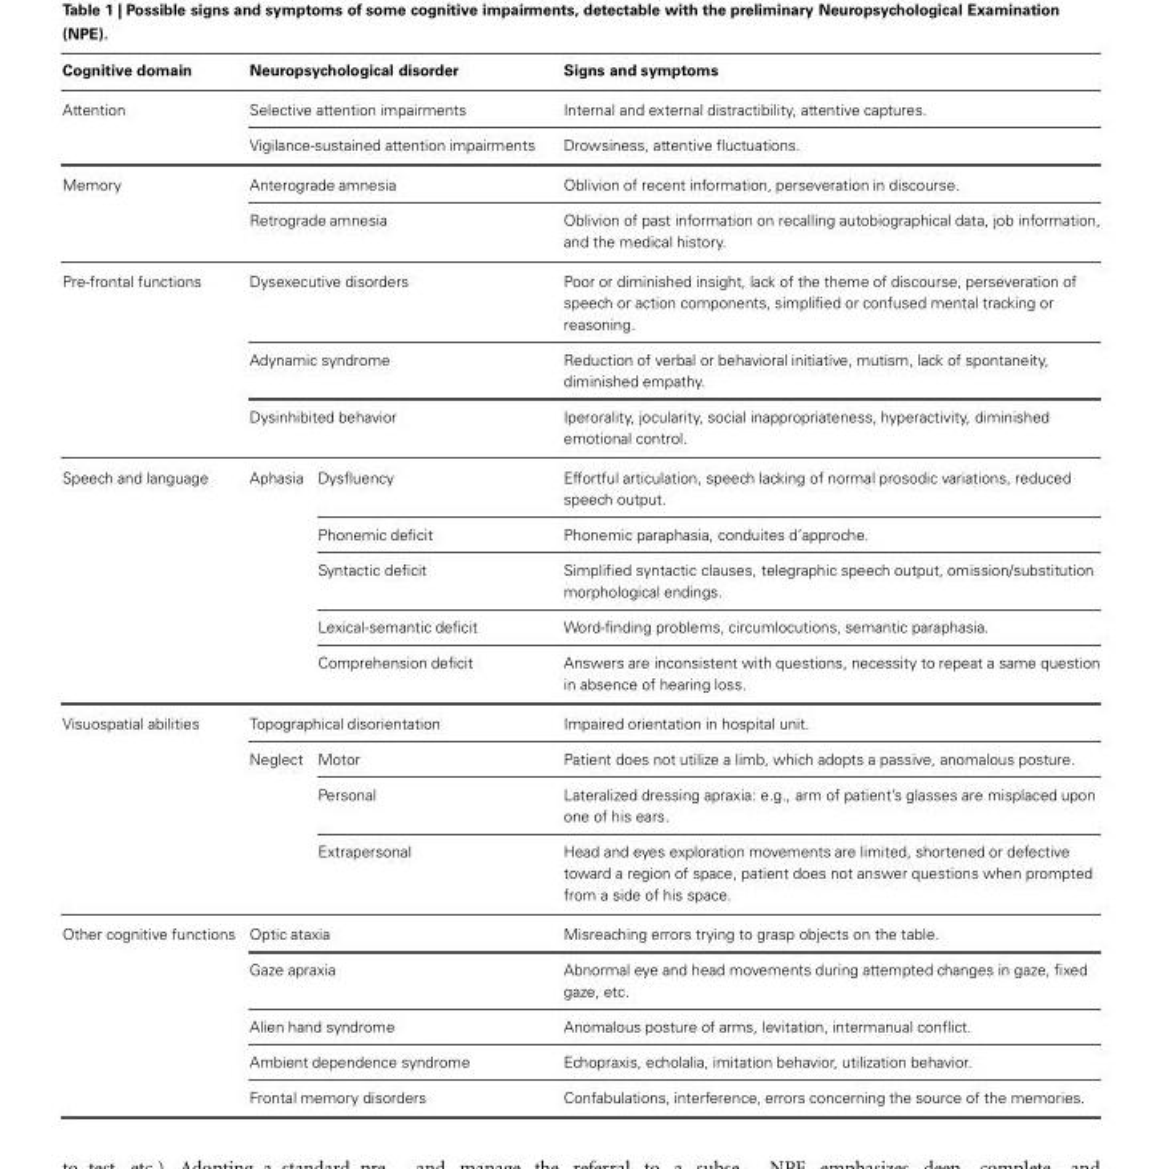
<table><thead><tr><td>Cognitive domain</td><td colspan="2">Neuropsychological disorder</td><td>Signs and symptoms</td></tr></thead><tbody><tr><td rowspan="2">Attention</td><td colspan="2">Selective attention impairments</td><td>Internal and external distractibility, attentive captures.</td></tr><tr><td colspan="2">Vigilance-sustained attention impairments</td><td>Drowsiness, attentive fluctuations.</td></tr><tr><td rowspan="2">Memory</td><td colspan="2">Anterograde amnesia</td><td>Oblivion of recent information, perseveration in discourse.</td></tr><tr><td colspan="2">Retrograde amnesia</td><td>Oblivion of past information on recalling autobiographical data, job information, and the medical history.</td></tr><tr><td rowspan="3">Pre-frontal functions</td><td colspan="2">Dysexecutive disorders</td><td>Poor or diminished insight, lack of the theme of discourse, perseveration of speech or action components, simplified or confused mental tracking or reasoning.</td></tr><tr><td colspan="2">Adynamic syndrome</td><td>Reduction of verbal or behavioral initiative, mutism, lack of spontaneity, diminished empathy.</td></tr><tr><td colspan="2">Dysinhibited behavior</td><td>Iperorality, jocularity, social inappropriateness, hyperactivity, diminished emotional control.</td></tr><tr><td rowspan="5">Speech and language</td><td>Aphasia</td><td>Dysfluency</td><td>Effortful articulation, speech lacking of normal prosodic variations, reduced speech output.</td></tr><tr><td></td><td>Phonemic deficit</td><td>Phonemic paraphasia, conduites d’approche.</td></tr><tr><td></td><td>Syntactic deficit</td><td>Simplified syntactic clauses, telegraphic speech output, omission/substitution morphological endings.</td></tr><tr><td></td><td>Lexical-semantic deficit</td><td>Word-finding problems, circumlocutions, semantic paraphasia.</td></tr><tr><td></td><td>Comprehension deficit</td><td>Answers are inconsistent with questions, necessity to repeat a same question in absence of hearing loss.</td></tr><tr><td rowspan="4">Visuospatial abilities</td><td colspan="2">Topographical disorientation</td><td>Impaired orientation in hospital unit.</td></tr><tr><td>Neglect</td><td>Motor</td><td>Patient does not utilize a limb, which adopts a passive, anomalous posture.</td></tr><tr><td></td><td>Personal</td><td>Lateralized dressing apraxia: e.g., arm of patient’s glasses are misplaced upon one of his ears.</td></tr><tr><td></td><td>Extrapersonal</td><td>Head and eyes exploration movements are limited, shortened or defective toward a region of space, patient does not answer questions when prompted from a side of his space.</td></tr><tr><td rowspan="5">Other cognitive functions</td><td colspan="2">Optic ataxia</td><td>Misreaching errors trying to grasp objects on the table.</td></tr><tr><td colspan="2">Gaze apraxia</td><td>Abnormal eye and head movements during attempted changes in gaze, fixed gaze, etc.</td></tr><tr><td colspan="2">Alien hand syndrome</td><td>Anomalous posture of arms, levitation, intermanual conflict.</td></tr><tr><td colspan="2">Ambient dependence syndrome</td><td>Echopraxis, echolalia, imitation behavior, utilization behavior.</td></tr><tr><td colspan="2">Frontal memory disorders</td><td>Confabulations, interference, errors concerning the source of the memories.</td></tr></tbody></table>